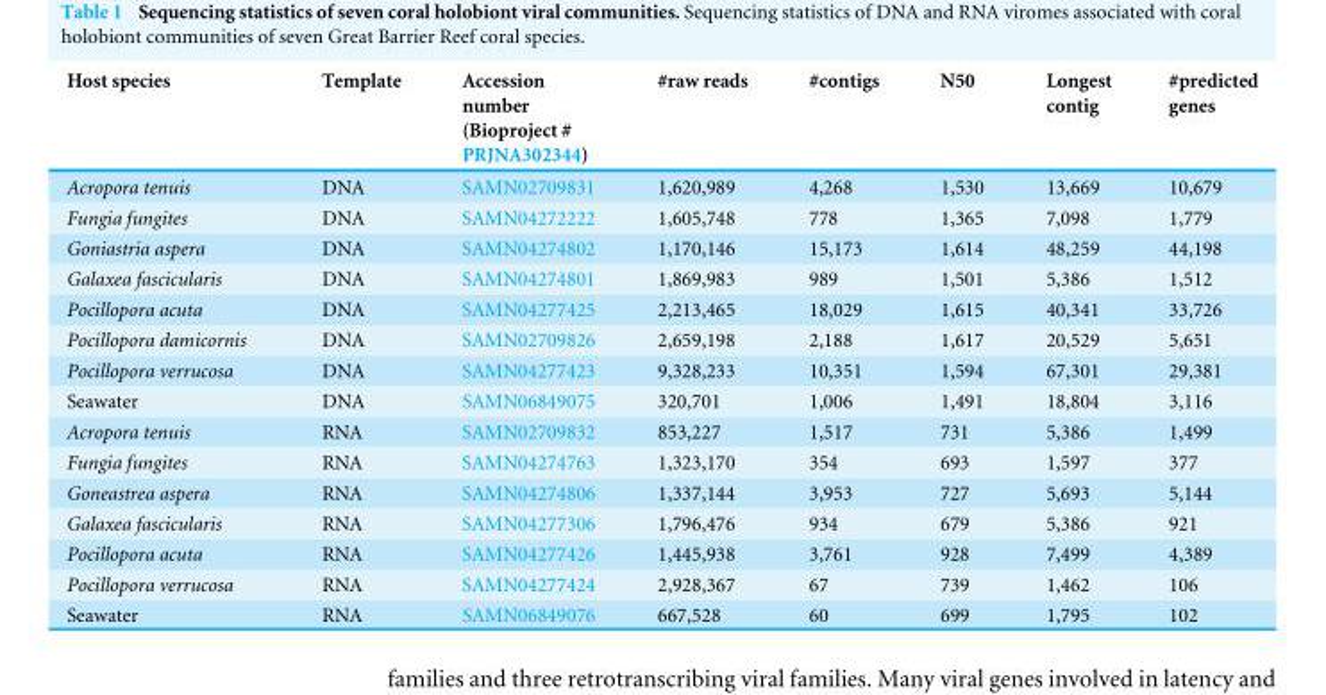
<table><thead><tr><td>Host species</td><td>Template</td><td>Accession number (Bioproject # PRJNA302344)</td><td>#raw reads</td><td>#contigs</td><td>N50</td><td>Longest contig</td><td>#predicted genes</td></tr></thead><tbody><tr><td>Acropora tenuis</td><td>DNA</td><td>SAMN02709831</td><td>1,620,989</td><td>4,268</td><td>1,530</td><td>13,669</td><td>10,679</td></tr><tr><td>Fungia fungites</td><td>DNA</td><td>SAMN04272222</td><td>1,605,748</td><td>778</td><td>1,365</td><td>7,098</td><td>1,779</td></tr><tr><td>Goniastria aspera</td><td>DNA</td><td>SAMN04274802</td><td>1,170,146</td><td>15,173</td><td>1,614</td><td>48,259</td><td>44,198</td></tr><tr><td>Galaxea fascicularis</td><td>DNA</td><td>SAMN04274801</td><td>1,869,983</td><td>989</td><td>1,501</td><td>5,386</td><td>1,512</td></tr><tr><td>Pocillopora acuta</td><td>DNA</td><td>SAMN04277425</td><td>2,213,465</td><td>18,029</td><td>1,615</td><td>40,341</td><td>33,726</td></tr><tr><td>Pocillopora damicornis</td><td>DNA</td><td>SAMN02709826</td><td>2,659,198</td><td>2,188</td><td>1,617</td><td>20,529</td><td>5,651</td></tr><tr><td>Pocillopora verrucosa</td><td>DNA</td><td>SAMN04277423</td><td>9,328,233</td><td>10,351</td><td>1,594</td><td>67,301</td><td>29,381</td></tr><tr><td>Seawater</td><td>DNA</td><td>SAMN06849075</td><td>320,701</td><td>1,006</td><td>1,491</td><td>18,804</td><td>3,116</td></tr><tr><td>Acropora tenuis</td><td>RNA</td><td>SAMN02709832</td><td>853,227</td><td>1,517</td><td>731</td><td>5,386</td><td>1,499</td></tr><tr><td>Fungia fungites</td><td>RNA</td><td>SAMN04274763</td><td>1,323,170</td><td>354</td><td>693</td><td>1,597</td><td>377</td></tr><tr><td>Goneastrea aspera</td><td>RNA</td><td>SAMN04274806</td><td>1,337,144</td><td>3,953</td><td>727</td><td>5,693</td><td>5,144</td></tr><tr><td>Galaxea fascicularis</td><td>RNA</td><td>SAMN04277306</td><td>1,796,476</td><td>934</td><td>679</td><td>5,386</td><td>921</td></tr><tr><td>Pocillopora acuta</td><td>RNA</td><td>SAMN04277426</td><td>1,445,938</td><td>3,761</td><td>928</td><td>7,499</td><td>4,389</td></tr><tr><td>Pocillopora verrucosa</td><td>RNA</td><td>SAMN04277424</td><td>2,928,367</td><td>67</td><td>739</td><td>1,462</td><td>106</td></tr><tr><td>Seawater</td><td>RNA</td><td>SAMN06849076</td><td>667,528</td><td>60</td><td>699</td><td>1,795</td><td>102</td></tr></tbody></table>